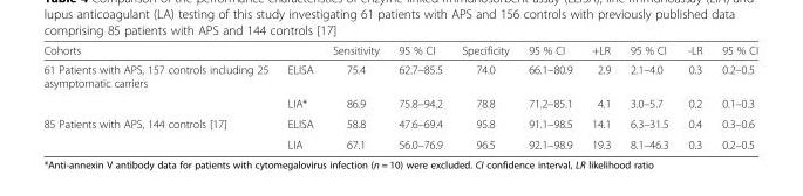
<table><thead><tr><td>Cohorts</td><td></td><td>Sensitivity</td><td>95 % CI</td><td>Specificity</td><td>95 % CI</td><td>+LR</td><td>95 % CI</td><td>-LR</td><td>95 % CI</td></tr></thead><tbody><tr><td rowspan="2">61 Patients with APS, 157 controls including 25 asymptomatic carriers</td><td>ELISA</td><td>75.4</td><td>62.7–85.5</td><td>74.0</td><td>66.1–80.9</td><td>2.9</td><td>2.1–4.0</td><td>0.3</td><td>0.2–0.5</td></tr><tr><td>LIA*</td><td>86.9</td><td>75.8–94.2</td><td>78.8</td><td>71.2–85.1</td><td>4.1</td><td>3.0–5.7</td><td>0.2</td><td>0.1–0.3</td></tr><tr><td rowspan="2">85 Patients with APS, 144 controls [17]</td><td>ELISA</td><td>58.8</td><td>47.6–69.4</td><td>95.8</td><td>91.1–98.5</td><td>14.1</td><td>6.3–31.5</td><td>0.4</td><td>0.3–0.6</td></tr><tr><td>LIA</td><td>67.1</td><td>56.0–76.9</td><td>96.5</td><td>92.1–98.9</td><td>19.3</td><td>8.1–46.3</td><td>0.3</td><td>0.2–0.5</td></tr></tbody></table>